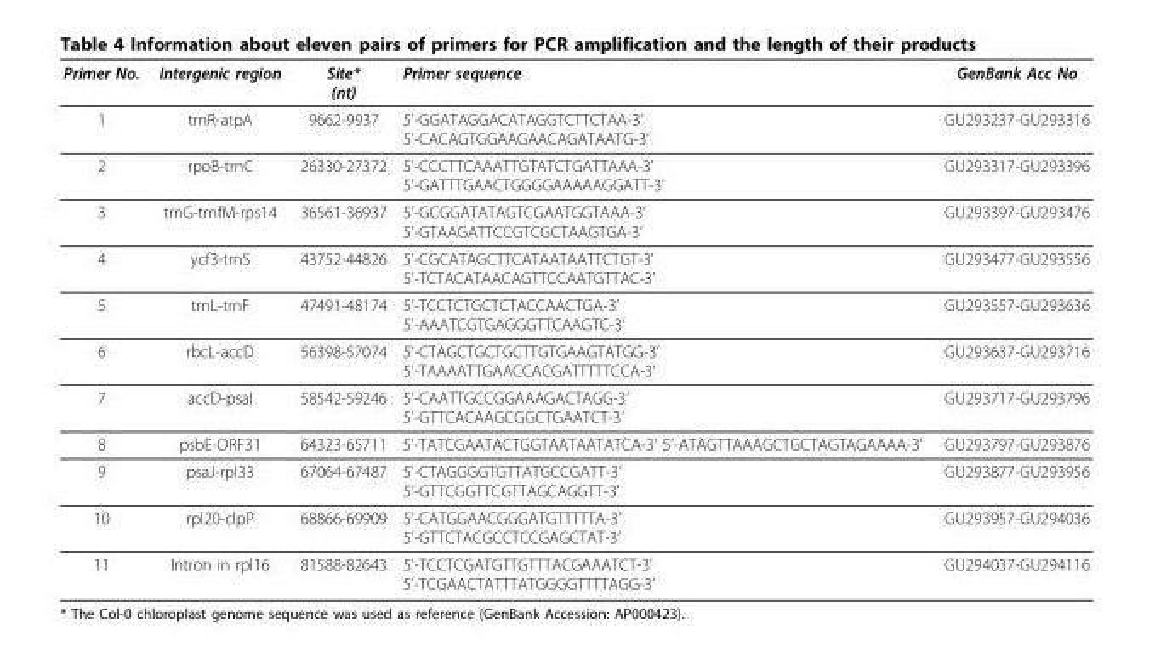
<table><thead><tr><td>Primer No.</td><td>Intergenic region</td><td>Site* (nt)</td><td>Primer sequence</td><td>GenBank Acc No</td></tr></thead><tbody><tr><td>1</td><td>trnR-atpA</td><td>9662-9937</td><td>5’-GGATAGGACATAGGTCTTCTAA-3’ 5’-CACAGTGGAAGAACAGATAATG-3’</td><td>GU293237-GU293316</td></tr><tr><td>2</td><td>rpoB-trnC</td><td>26330-27372</td><td>5’-CCCTTCAAATTGTATCTGATTAAA-3’ 5’-GATTTGAACTGGGGAAAAAGGATT-3’</td><td>GU293317-GU293396</td></tr><tr><td>3</td><td>trnG-trnfM-rps14</td><td>36561-36937</td><td>5’-GCGGATATAGTCGAATGGTAAA-3’ 5’-GTAAGATTCCGTCGCTAAGTGA-3’</td><td>GU293397-GU293476</td></tr><tr><td>4</td><td>ycf3-trnS</td><td>43752-44826</td><td>5’-CGCATAGCTTCATAATAATTCTGT-3’ 5’-TCTACATAACAGTTCCAATGTTAC-3’</td><td>GU293477-GU293556</td></tr><tr><td>5</td><td>trnL-trnF</td><td>47491-48174</td><td>5’-TCCTCTGCTCTACCAACTGA-3’ 5’-AAATCGTGAGGGTTCAAGTC-3’</td><td>GU293557-GU293636</td></tr><tr><td>6</td><td>rbcL-accD</td><td>56398-57074</td><td>5’-CTAGCTGCTGCTTGTGAAGTATGG-3’ 5’-TAAAATTGAACCACGATTTTTCCA-3’</td><td>GU293637-GU293716</td></tr><tr><td>7</td><td>accD-psaI</td><td>58542-59246</td><td>5’-CAATTGCCGGAAAGACTAGG-3’ 5’-GTTCACAAGCGGCTGAATCT-3’</td><td>GU293717-GU293796</td></tr><tr><td>8</td><td>psbE-ORF31</td><td>64323-65711</td><td>5’-TATCGAATACTGGTAATAATATCA-3’ 5’-ATAGTTAAAGCTGCTAGTAGAAAA-3’</td><td>GU293797-GU293876</td></tr><tr><td>9</td><td>psaJ-rpl33</td><td>67064-67487</td><td>5’-CTAGGGGTGTTATGCCGATT-3’ 5’-GTTCGGTTCGTTAGCAGGTT-3’</td><td>GU293877-GU293956</td></tr><tr><td>10</td><td>rpl20-clpP</td><td>68866-69909</td><td>5’-CATGGAACGGGATGTTTTTA-3’ 5’-GTTCTACGCCTCCGAGCTAT-3’</td><td>GU293957-GU294036</td></tr><tr><td>11</td><td>Intron in rpl16</td><td>81588-82643</td><td>5’-TCCTCGATGTTGTTTACGAAATCT-3’ 5’-TCGAACTATTTATGGGGTTTTAGG-3’</td><td>GU294037-GU294116</td></tr></tbody></table>